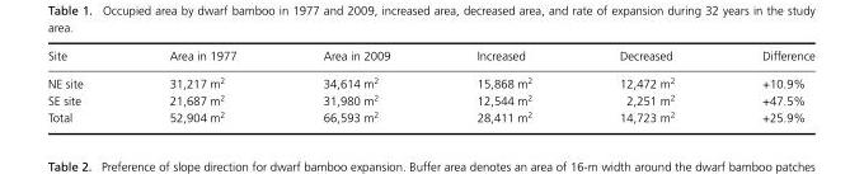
<table><thead><tr><td>Site</td><td>Area in 1977</td><td>Area in 2009</td><td>Increased</td><td>Decreased</td><td>Difference</td></tr></thead><tbody><tr><td>NE site</td><td>31,217 m<sup>2</sup></td><td>34,614 m<sup>2</sup></td><td>15,868 m<sup>2</sup></td><td>12,472 m<sup>2</sup></td><td>+10.9%</td></tr><tr><td>SE site</td><td>21,687 m<sup>2</sup></td><td>31,980 m<sup>2</sup></td><td>12,544 m<sup>2</sup></td><td>2,251 m<sup>2</sup></td><td>+47.5%</td></tr><tr><td>Total</td><td>52,904 m<sup>2</sup></td><td>66,593 m<sup>2</sup></td><td>28,411 m<sup>2</sup></td><td>14,723 m<sup>2</sup></td><td>+25.9%</td></tr></tbody></table>